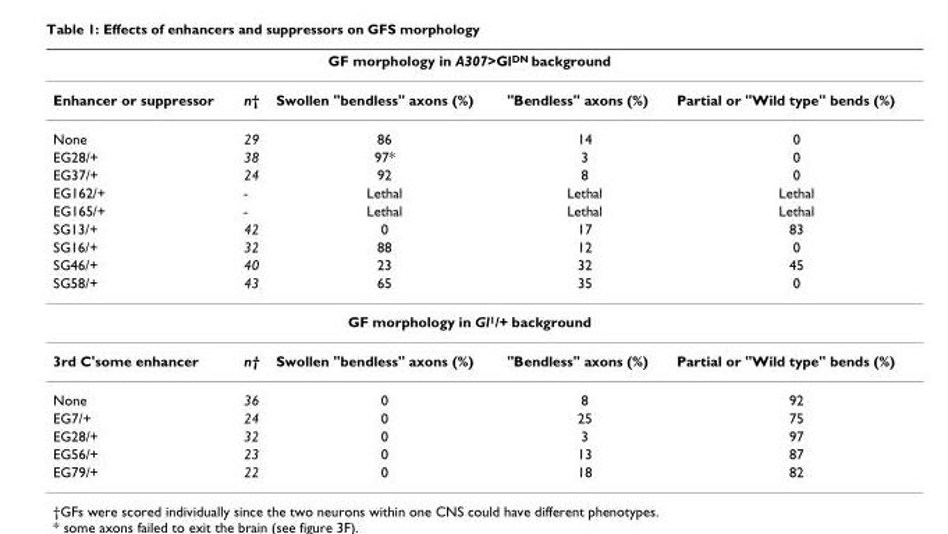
<table><thead><tr><td rowspan="2">Enhancer or suppressor</td><td rowspan="2">n†</td><td colspan="2">GF morphology in A307&gt;Gl<sup>DN</sup> background</td><td rowspan="2">Partial or &quot;Wild type&quot; bends (%)</td></tr><tr><td>Swollen &quot;bendless&quot; axons (%)</td><td>&quot;Bendless&quot; axons (%)</td></tr></thead><tbody><tr><td>None</td><td>29</td><td>86</td><td>14</td><td>0</td></tr><tr><td>EG28/+</td><td>38</td><td>97*</td><td>3</td><td>0</td></tr><tr><td>EG37/+</td><td>24</td><td>92</td><td>8</td><td>0</td></tr><tr><td>EG162/+</td><td>-</td><td>Lethal</td><td>Lethal</td><td>Lethal</td></tr><tr><td>EG165/+</td><td>-</td><td>Lethal</td><td>Lethal</td><td>Lethal</td></tr><tr><td>SG13/+</td><td>42</td><td>0</td><td>17</td><td>83</td></tr><tr><td>SG16/+</td><td>32</td><td>88</td><td>12</td><td>0</td></tr><tr><td>SG46/+</td><td>40</td><td>23</td><td>32</td><td>45</td></tr><tr><td rowspan="2">SG58/+</td><td>43</td><td>65</td><td>35</td><td>0</td></tr><tr><td></td><td colspan="2">GF morphology in Gl1/+ background</td><td></td></tr><tr><td>3rd C&#x27;some enhancer</td><td>n†</td><td>Swollen &quot;bendless&quot; axons (%)</td><td>&quot;Bendless&quot; axons (%)</td><td>Partial or &quot;Wild type&quot; bends (%)</td></tr><tr><td>None</td><td>36</td><td>0</td><td>8</td><td>92</td></tr><tr><td>EG7/+</td><td>24</td><td>0</td><td>25</td><td>75</td></tr><tr><td>EG28/+</td><td>32</td><td>0</td><td>3</td><td>97</td></tr><tr><td>EG56/+</td><td>23</td><td>0</td><td>13</td><td>87</td></tr><tr><td>EG79/+</td><td>22</td><td>0</td><td>18</td><td>82</td></tr></tbody></table>